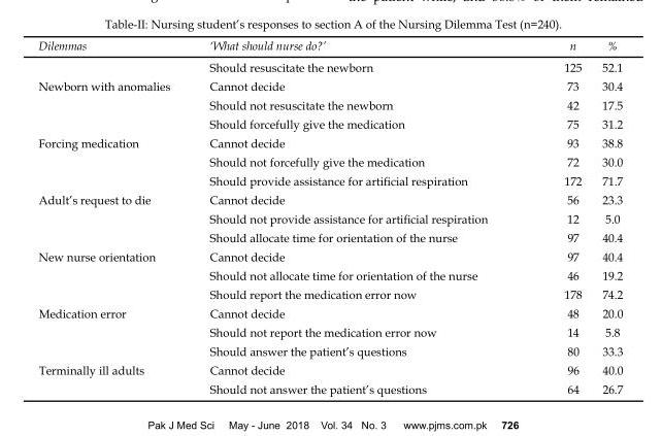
<table><thead><tr><td>Dilemmas</td><td>‘What should nurse do?’</td><td>n</td><td>%</td></tr></thead><tbody><tr><td rowspan="3">Newborn with anomalies</td><td>Should resuscitate the newborn</td><td>125</td><td>52.1</td></tr><tr><td>Cannot decide</td><td>73</td><td>30.4</td></tr><tr><td>Should not resuscitate the newborn</td><td>42</td><td>17.5</td></tr><tr><td rowspan="3">Forcing medication</td><td>Should forcefully give the medication</td><td>75</td><td>31.2</td></tr><tr><td>Cannot decide</td><td>93</td><td>38.8</td></tr><tr><td>Should not forcefully give the medication</td><td>72</td><td>30.0</td></tr><tr><td rowspan="3">Adult’s request to die</td><td>Should provide assistance for artificial respiration</td><td>172</td><td>71.7</td></tr><tr><td>Cannot decide</td><td>56</td><td>23.3</td></tr><tr><td>Should not provide assistance for artificial respiration</td><td>12</td><td>5.0</td></tr><tr><td rowspan="3">New nurse orientation</td><td>Should allocate time for orientation of the nurse</td><td>97</td><td>40.4</td></tr><tr><td>Cannot decide</td><td>97</td><td>40.4</td></tr><tr><td>Should not allocate time for orientation of the nurse</td><td>46</td><td>19.2</td></tr><tr><td rowspan="3">Medication error</td><td>Should report the medication error now</td><td>178</td><td>74.2</td></tr><tr><td>Cannot decide</td><td>48</td><td>20.0</td></tr><tr><td>Should not report the medication error now</td><td>14</td><td>5.8</td></tr><tr><td rowspan="3">Terminally ill adults</td><td>Should answer the patient’s questions</td><td>80</td><td>33.3</td></tr><tr><td>Cannot decide</td><td>96</td><td>40.0</td></tr><tr><td>Should not answer the patient’s questions</td><td>64</td><td>26.7</td></tr></tbody></table>